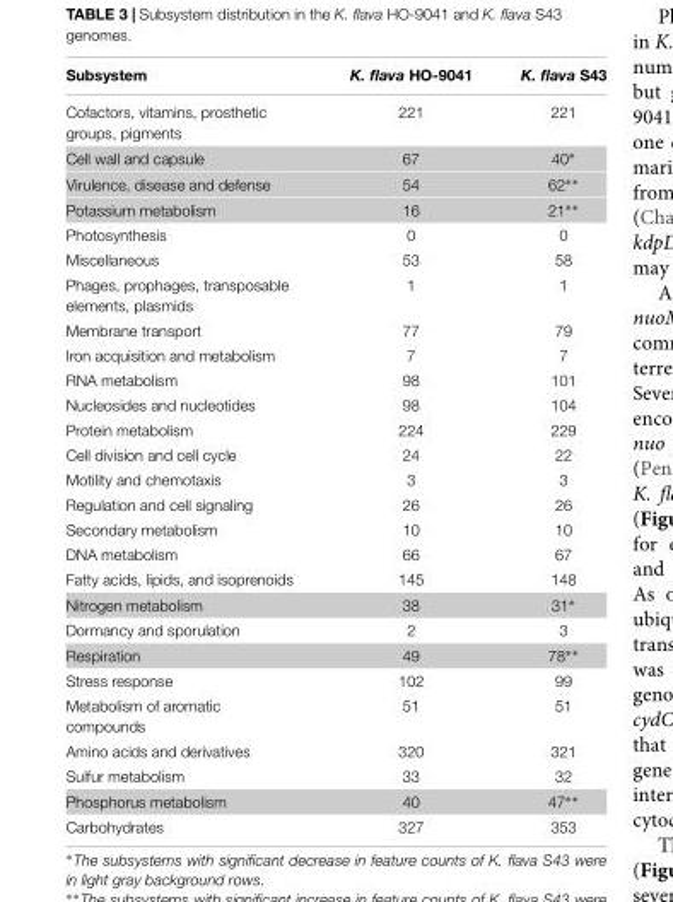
<table><thead><tr><td>Subsystem</td><td>K. flava HO-9041</td><td>K. flava S43</td></tr></thead><tbody><tr><td>Cofactors, vitamins, prosthetic groups, pigments</td><td>221</td><td>221</td></tr><tr><td>Cell wall and capsule</td><td>67</td><td>40∗</td></tr><tr><td>Virulence, disease and defense</td><td>54</td><td>62∗∗</td></tr><tr><td>Potassium metabolism</td><td>16</td><td>21∗∗</td></tr><tr><td>Photosynthesis</td><td>0</td><td>0</td></tr><tr><td>Miscellaneous</td><td>53</td><td>58</td></tr><tr><td>Phages, prophages, transposable elements, plasmids</td><td>1</td><td>1</td></tr><tr><td>Membrane transport</td><td>77</td><td>79</td></tr><tr><td>Iron acquisition and metabolism</td><td>7</td><td>7</td></tr><tr><td>RNA metabolism</td><td>98</td><td>101</td></tr><tr><td>Nucleosides and nucleotides</td><td>98</td><td>104</td></tr><tr><td>Protein metabolism</td><td>224</td><td>229</td></tr><tr><td>Cell division and cell cycle</td><td>24</td><td>22</td></tr><tr><td>Motility and chemotaxis</td><td>3</td><td>3</td></tr><tr><td>Regulation and cell signaling</td><td>26</td><td>26</td></tr><tr><td>Secondary metabolism</td><td>10</td><td>10</td></tr><tr><td>DNA metabolism</td><td>66</td><td>67</td></tr><tr><td>Fatty acids, lipids, and isoprenoids</td><td>145</td><td>148</td></tr><tr><td>Nitrogen metabolism</td><td>38</td><td>31∗</td></tr><tr><td>Dormancy and sporulation</td><td>2</td><td>3</td></tr><tr><td>Respiration</td><td>49</td><td>78∗∗</td></tr><tr><td>Stress response</td><td>102</td><td>99</td></tr><tr><td>Metabolism of aromatic compounds</td><td>51</td><td>51</td></tr><tr><td>Amino acids and derivatives</td><td>320</td><td>321</td></tr><tr><td>Sulfur metabolism</td><td>33</td><td>32</td></tr><tr><td>Phosphorus metabolism</td><td>40</td><td>47∗∗</td></tr><tr><td>Carbohydrates</td><td>327</td><td>353</td></tr></tbody></table>